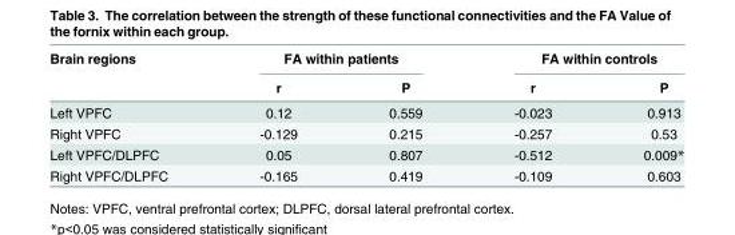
<table><thead><tr><td rowspan="2">Brain regions</td><td colspan="2">FA within patients</td><td colspan="2">FA within controls</td></tr><tr><td>r</td><td>P</td><td>r</td><td>P</td></tr></thead><tbody><tr><td>Left VPFC</td><td>0.12</td><td>0.559</td><td>-0.023</td><td>0.913</td></tr><tr><td>Right VPFC</td><td>-0.129</td><td>0.215</td><td>-0.257</td><td>0.53</td></tr><tr><td>Left VPFC/DLPFC</td><td>0.05</td><td>0.807</td><td>-0.512</td><td>0.009*</td></tr><tr><td>Right VPFC/DLPFC</td><td>-0.165</td><td>0.419</td><td>-0.109</td><td>0.603</td></tr></tbody></table>